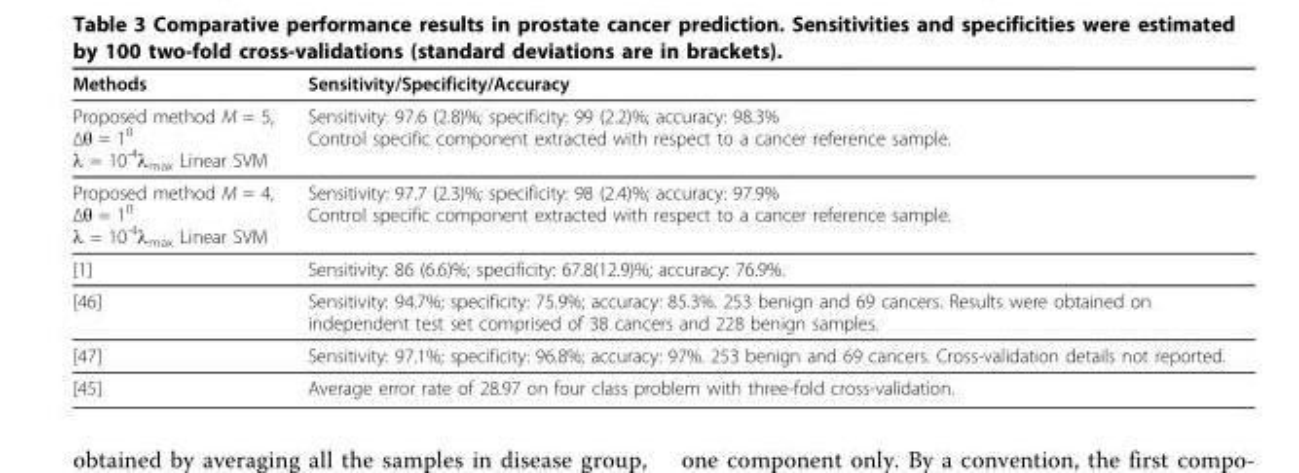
<table><thead><tr><td>Methods</td><td>Sensitivity/Specificity/Accuracy</td></tr></thead><tbody><tr><td>Proposed method M = 5, Δθ = 1<sup>0</sup> λ = 10<sup>-4</sup>λ<sub>max</sub> Linear SVM</td><td>Sensitivity: 97.6 (2.8)%; specificity: 99 (2.2)%; accuracy: 98.3% Control specific component extracted with respect to a cancer reference sample.</td></tr><tr><td>Proposed method M = 4, Δθ = 1<sup>0</sup> λ = 10<sup>-4</sup>λ<sub>max</sub> Linear SVM</td><td>Sensitivity: 97.7 (2.3)%; specificity: 98 (2.4)%; accuracy: 97.9% Control specific component extracted with respect to a cancer reference sample.</td></tr><tr><td>[1]</td><td>Sensitivity: 86 (6.6)%; specificity: 67.8(12.9)%; accuracy: 76.9%.</td></tr><tr><td>[46]</td><td>Sensitivity: 94.7%; specificity: 75.9%; accuracy: 85.3%. 253 benign and 69 cancers. Results were obtained on independent test set comprised of 38 cancers and 228 benign samples.</td></tr><tr><td>[47]</td><td>Sensitivity: 97.1%; specificity: 96.8%; accuracy: 97%. 253 benign and 69 cancers. Cross-validation details not reported.</td></tr><tr><td>[45]</td><td>Average error rate of 28.97 on four class problem with three-fold cross-validation.</td></tr></tbody></table>